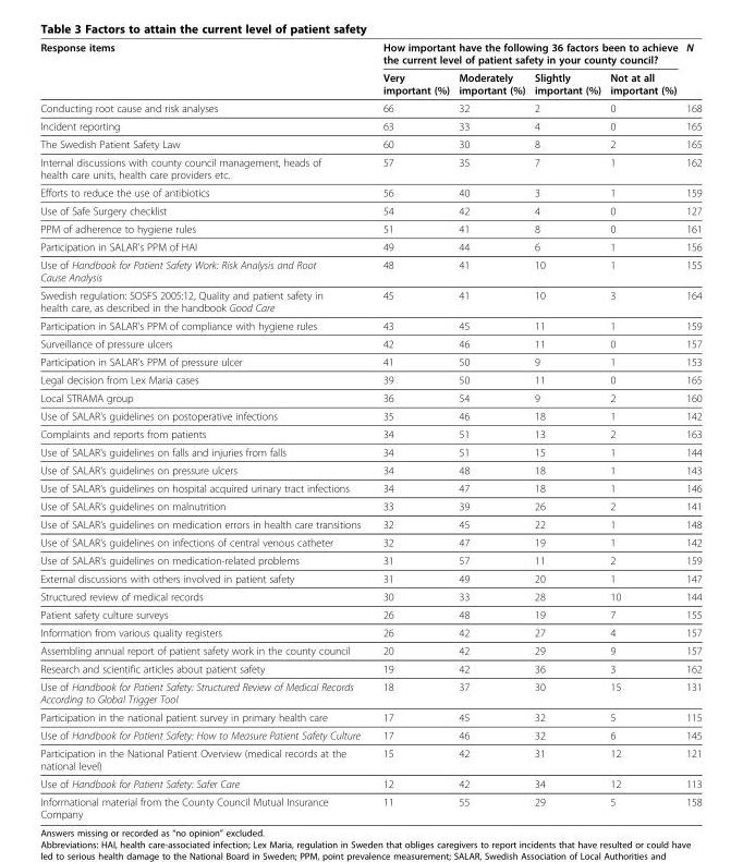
<table><thead><tr><td rowspan="2">Response items</td><td colspan="4">How important have the following 36 factors been to achieve the current level of patient safety in your county council?</td><td rowspan="2">N</td></tr><tr><td>Very important (%)</td><td>Moderately important (%)</td><td>Slightly important (%)</td><td>Not at all important (%)</td></tr></thead><tbody><tr><td>Conducting root cause and risk analyses</td><td>66</td><td>32</td><td>2</td><td>0</td><td>168</td></tr><tr><td>Incident reporting</td><td>63</td><td>33</td><td>4</td><td>0</td><td>165</td></tr><tr><td>The Swedish Patient Safety Law</td><td>60</td><td>30</td><td>8</td><td>2</td><td>165</td></tr><tr><td>Internal discussions with county council management, heads of health care units, health care providers etc.</td><td>57</td><td>35</td><td>7</td><td>1</td><td>162</td></tr><tr><td>Efforts to reduce the use of antibiotics</td><td>56</td><td>40</td><td>3</td><td>1</td><td>159</td></tr><tr><td>Use of Safe Surgery checklist</td><td>54</td><td>42</td><td>4</td><td>0</td><td>127</td></tr><tr><td>PPM of adherence to hygiene rules</td><td>51</td><td>41</td><td>8</td><td>0</td><td>161</td></tr><tr><td>Participation in SALAR&#x27;s PPM of HAI</td><td>49</td><td>44</td><td>6</td><td>1</td><td>156</td></tr><tr><td>Use of Handbook for Patient Safety Work: Risk Analysis and Root Cause Analysis</td><td>48</td><td>41</td><td>10</td><td>1</td><td>155</td></tr><tr><td>Swedish regulation: SOSFS 2005:12, Quality and patient safety in health care, as described in the handbook Good Care</td><td>45</td><td>41</td><td>10</td><td>3</td><td>164</td></tr><tr><td>Participation in SALAR&#x27;s PPM of compliance with hygiene rules</td><td>43</td><td>45</td><td>11</td><td>1</td><td>159</td></tr><tr><td>Surveillance of pressure ulcers</td><td>42</td><td>46</td><td>11</td><td>0</td><td>157</td></tr><tr><td>Participation in SALAR’s PPM of pressure ulcer</td><td>41</td><td>50</td><td>9</td><td>1</td><td>153</td></tr><tr><td>Legal decision from Lex Maria cases</td><td>39</td><td>50</td><td>11</td><td>0</td><td>165</td></tr><tr><td>Local STRAMA group</td><td>36</td><td>54</td><td>9</td><td>2</td><td>160</td></tr><tr><td>Use of SALAR&#x27;s guidelines on postoperative infections</td><td>35</td><td>46</td><td>18</td><td>1</td><td>142</td></tr><tr><td>Complaints and reports from patients</td><td>34</td><td>51</td><td>13</td><td>2</td><td>163</td></tr><tr><td>Use of SALAR&#x27;s guidelines on falls and injuries from falls</td><td>34</td><td>51</td><td>15</td><td>1</td><td>144</td></tr><tr><td>Use of SALAR&#x27;s guidelines on pressure ulcers</td><td>34</td><td>48</td><td>18</td><td>1</td><td>143</td></tr><tr><td>Use of SALAR&#x27;s guidelines on hospital acquired urinary tract infections</td><td>34</td><td>47</td><td>18</td><td>1</td><td>146</td></tr><tr><td>Use of SALAR&#x27;s guidelines on malnutrition</td><td>33</td><td>39</td><td>26</td><td>2</td><td>141</td></tr><tr><td>Use of SALAR&#x27;s guidelines on medication errors in health care transitions</td><td>32</td><td>45</td><td>22</td><td>1</td><td>148</td></tr><tr><td>Use of SALAR&#x27;s guidelines on infections of central venous catheter</td><td>32</td><td>47</td><td>19</td><td>1</td><td>142</td></tr><tr><td>Use of SALAR&#x27;s guidelines on medication-related problems</td><td>31</td><td>57</td><td>11</td><td>2</td><td>159</td></tr><tr><td>External discussions with others involved in patient safety</td><td>31</td><td>49</td><td>20</td><td>1</td><td>147</td></tr><tr><td>Structured review of medical records</td><td>30</td><td>33</td><td>28</td><td>10</td><td>144</td></tr><tr><td>Patient safety culture surveys</td><td>26</td><td>48</td><td>19</td><td>7</td><td>155</td></tr><tr><td>Information from various quality registers</td><td>26</td><td>42</td><td>27</td><td>4</td><td>157</td></tr><tr><td>Assembling annual report of patient safety work in the county council</td><td>20</td><td>42</td><td>29</td><td>9</td><td>157</td></tr><tr><td>Research and scientific articles about patient safety</td><td>19</td><td>42</td><td>36</td><td>3</td><td>162</td></tr><tr><td>Use of Handbook for Patient Safety: Structured Review of Medical Records According to Global Trigger Tool</td><td>18</td><td>37</td><td>30</td><td>15</td><td>131</td></tr><tr><td>Participation in the national patient survey in primary health care</td><td>17</td><td>45</td><td>32</td><td>5</td><td>115</td></tr><tr><td>Use of Handbook for Patient Safety: How to Measure Patient Safety Culture</td><td>17</td><td>46</td><td>32</td><td>6</td><td>145</td></tr><tr><td>Participation in the National Patient Overview (medical records at the national level)</td><td>15</td><td>42</td><td>31</td><td>12</td><td>121</td></tr><tr><td>Use of Handbook for Patient Safety: Safer Care</td><td>12</td><td>42</td><td>34</td><td>12</td><td>113</td></tr><tr><td>Informational material from the County Council Mutual Insurance Company</td><td>11</td><td>55</td><td>29</td><td>5</td><td>158</td></tr></tbody></table>